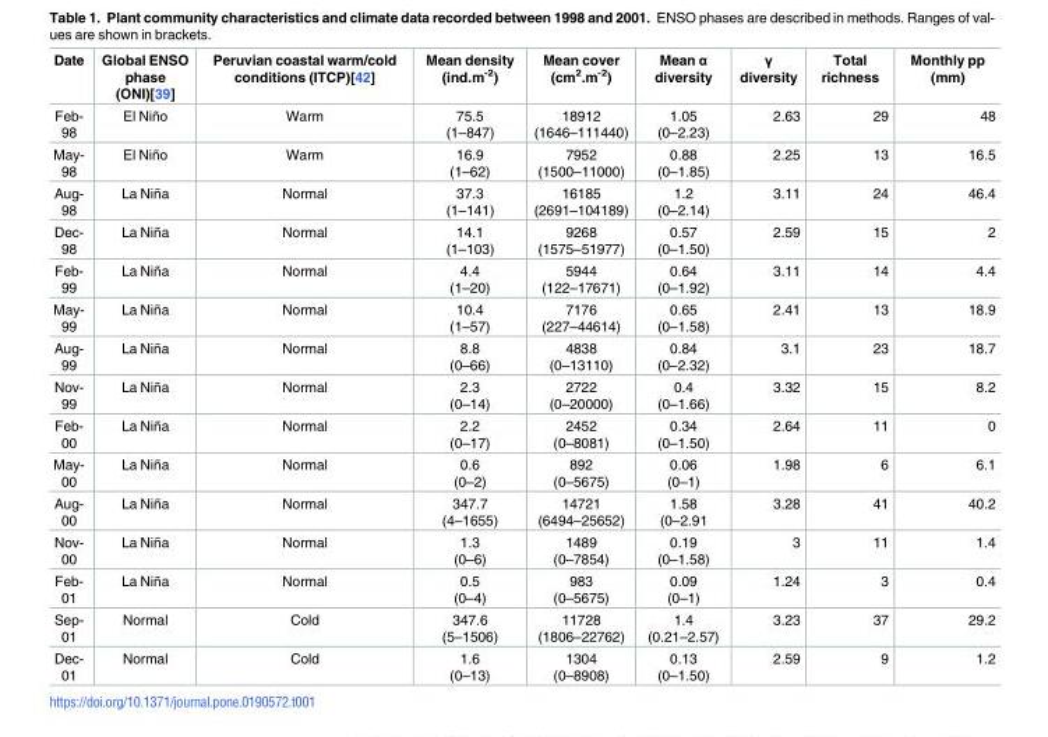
<table><thead><tr><td>Date</td><td>Global ENSO phase (ONI)[39]</td><td>Peruvian coastal warm/cold conditions (ITCP)[42]</td><td>Mean density (ind.m<sup>-2</sup>)</td><td>Mean cover (cm<sup>2</sup>.m<sup>-2</sup>)</td><td>Mean α diversity</td><td>γ diversity</td><td>Total richness</td><td>Monthly pp (mm)</td></tr></thead><tbody><tr><td>Feb- 98</td><td>El Niño</td><td>Warm</td><td>75.5 (1–847)</td><td>18912 (1646–111440)</td><td>1.05 (0–2.23)</td><td>2.63</td><td>29</td><td>48</td></tr><tr><td>May- 98</td><td>El Niño</td><td>Warm</td><td>16.9 (1–62)</td><td>7952 (1500–11000)</td><td>0.88 (0–1.85)</td><td>2.25</td><td>13</td><td>16.5</td></tr><tr><td>Aug- 98</td><td>La Niña</td><td>Normal</td><td>37.3 (1–141)</td><td>16185 (2691–104189)</td><td>1.2 (0–2.14)</td><td>3.11</td><td>24</td><td>46.4</td></tr><tr><td>Dec- 98</td><td>La Niña</td><td>Normal</td><td>14.1 (1–103)</td><td>9268 (1575–51977)</td><td>0.57 (0–1.50)</td><td>2.59</td><td>15</td><td>2</td></tr><tr><td>Feb- 99</td><td>La Niña</td><td>Normal</td><td>4.4 (1–20)</td><td>5944 (122–17671)</td><td>0.64 (0–1.92)</td><td>3.11</td><td>14</td><td>4.4</td></tr><tr><td>May- 99</td><td>La Niña</td><td>Normal</td><td>10.4 (1–57)</td><td>7176 (227–44614)</td><td>0.65 (0–1.58)</td><td>2.41</td><td>13</td><td>18.9</td></tr><tr><td>Aug- 99</td><td>La Niña</td><td>Normal</td><td>8.8 (0–66)</td><td>4838 (0–13110)</td><td>0.84 (0–2.32)</td><td>3.1</td><td>23</td><td>18.7</td></tr><tr><td>Nov- 99</td><td>La Niña</td><td>Normal</td><td>2.3 (0–14)</td><td>2722 (0–20000)</td><td>0.4 (0–1.66)</td><td>3.32</td><td>15</td><td>8.2</td></tr><tr><td>Feb- 00</td><td>La Niña</td><td>Normal</td><td>2.2 (0–17)</td><td>2452 (0–8081)</td><td>0.34 (0–1.50)</td><td>2.64</td><td>11</td><td>0</td></tr><tr><td>May- 00</td><td>La Niña</td><td>Normal</td><td>0.6 (0–2)</td><td>892 (0–5675)</td><td>0.06 (0–1)</td><td>1.98</td><td>6</td><td>6.1</td></tr><tr><td>Aug- 00</td><td>La Niña</td><td>Normal</td><td>347.7 (4–1655)</td><td>14721 (6494–25652)</td><td>1.58 (0–2.91</td><td>3.28</td><td>41</td><td>40.2</td></tr><tr><td>Nov- 00</td><td>La Niña</td><td>Normal</td><td>1.3 (0–6)</td><td>1489 (0–7854)</td><td>0.19 (0–1.58)</td><td>3</td><td>11</td><td>1.4</td></tr><tr><td>Feb- 01</td><td>La Niña</td><td>Normal</td><td>0.5 (0–4)</td><td>983 (0–5675)</td><td>0.09 (0–1)</td><td>1.24</td><td>3</td><td>0.4</td></tr><tr><td>Sep- 01</td><td>Normal</td><td>Cold</td><td>347.6 (5–1506)</td><td>11728 (1806–22762)</td><td>1.4 (0.21–2.57)</td><td>3.23</td><td>37</td><td>29.2</td></tr><tr><td>Dec- 01</td><td>Normal</td><td>Cold</td><td>1.6 (0–13)</td><td>1304 (0–8908)</td><td>0.13 (0–1.50)</td><td>2.59</td><td>9</td><td>1.2</td></tr></tbody></table>